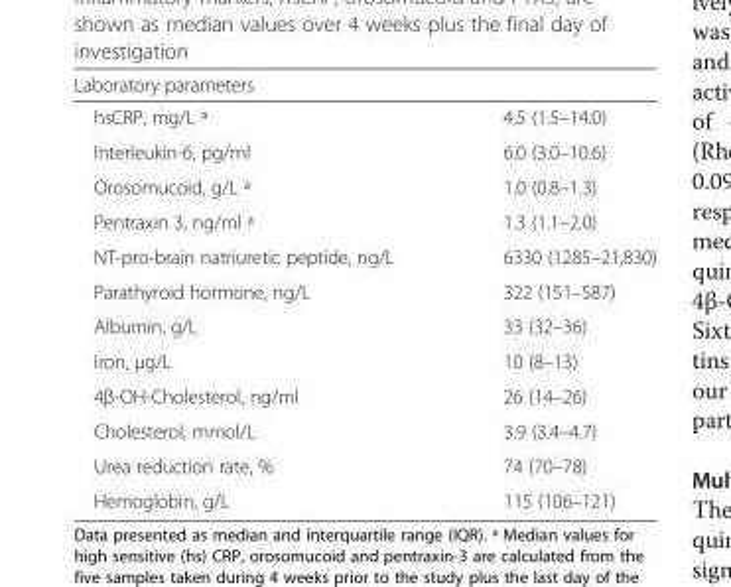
<table><thead><tr><td colspan="2">Laboratory parameters</td></tr><tr><td>hsCRP, mg/L ª</td><td>4.5 (1.5–14.0)</td></tr></thead><tbody><tr><td>Interleukin-6, pg/ml</td><td>6.0 (3.0–10.6)</td></tr><tr><td>Orosomucoid, g/L ª</td><td>1.0 (0.8–1.3)</td></tr><tr><td>Pentraxin 3, ng/ml ª</td><td>1.3 (1.1–2.0)</td></tr><tr><td>NT-pro-brain natriuretic peptide, ng/L</td><td>6330 (1285–21,830)</td></tr><tr><td>Parathyroid hormone, ng/L</td><td>322 (151–587)</td></tr><tr><td>Albumin, g/L</td><td>33 (32–36)</td></tr><tr><td>Iron, μg/L</td><td>10 (8–13)</td></tr><tr><td>4β-OH-Cholesterol, ng/ml</td><td>26 (14–26)</td></tr><tr><td>Cholesterol, mmol/L</td><td>3.9 (3.4–4.7)</td></tr><tr><td>Urea reduction rate, %</td><td>74 (70–78)</td></tr><tr><td>Hemoglobin, g/L</td><td>115 (106–121)</td></tr></tbody></table>